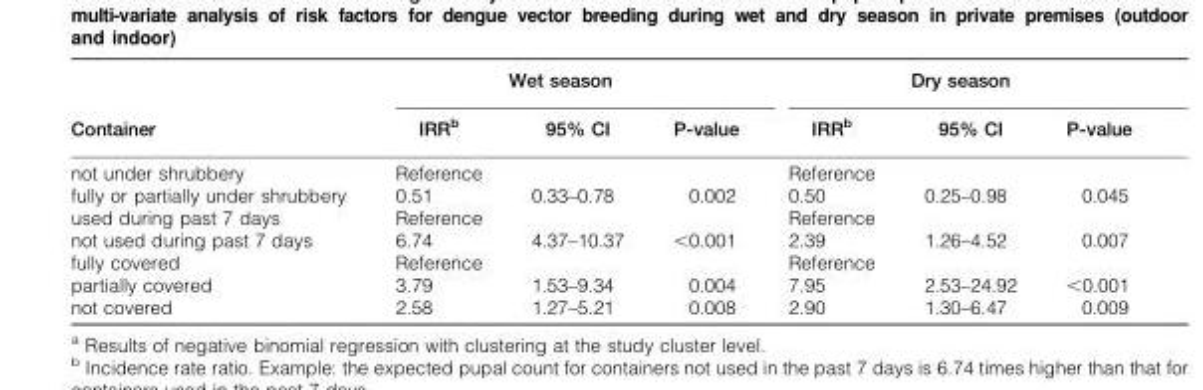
<table><thead><tr><td rowspan="2">Container</td><td colspan="3">Wet season</td><td colspan="3">Dry season</td></tr><tr><td>IRR<sup>b</sup></td><td>95% CI</td><td>P-value</td><td>IRR<sup>b</sup></td><td>95% CI</td><td>P-value</td></tr></thead><tbody><tr><td>not under shrubbery</td><td>Reference</td><td></td><td></td><td>Reference</td><td></td><td></td></tr><tr><td>fully or partially under shrubbery</td><td>0.51</td><td>0.33–0.78</td><td>0.002</td><td>0.50</td><td>0.25–0.98</td><td>0.045</td></tr><tr><td>used during past 7 days</td><td>Reference</td><td></td><td></td><td>Reference</td><td></td><td></td></tr><tr><td>not used during past 7 days</td><td>6.74</td><td>4.37–10.37</td><td>&lt;0.001</td><td>2.39</td><td>1.26–4.52</td><td>0.007</td></tr><tr><td>fully covered</td><td>Reference</td><td></td><td></td><td>Reference</td><td></td><td></td></tr><tr><td>partially covered</td><td>3.79</td><td>1.53–9.34</td><td>0.004</td><td>7.95</td><td>2.53–24.92</td><td>&lt;0.001</td></tr><tr><td>not covered</td><td>2.58</td><td>1.27–5.21</td><td>0.008</td><td>2.90</td><td>1.30–6.47</td><td>0.009</td></tr></tbody></table>